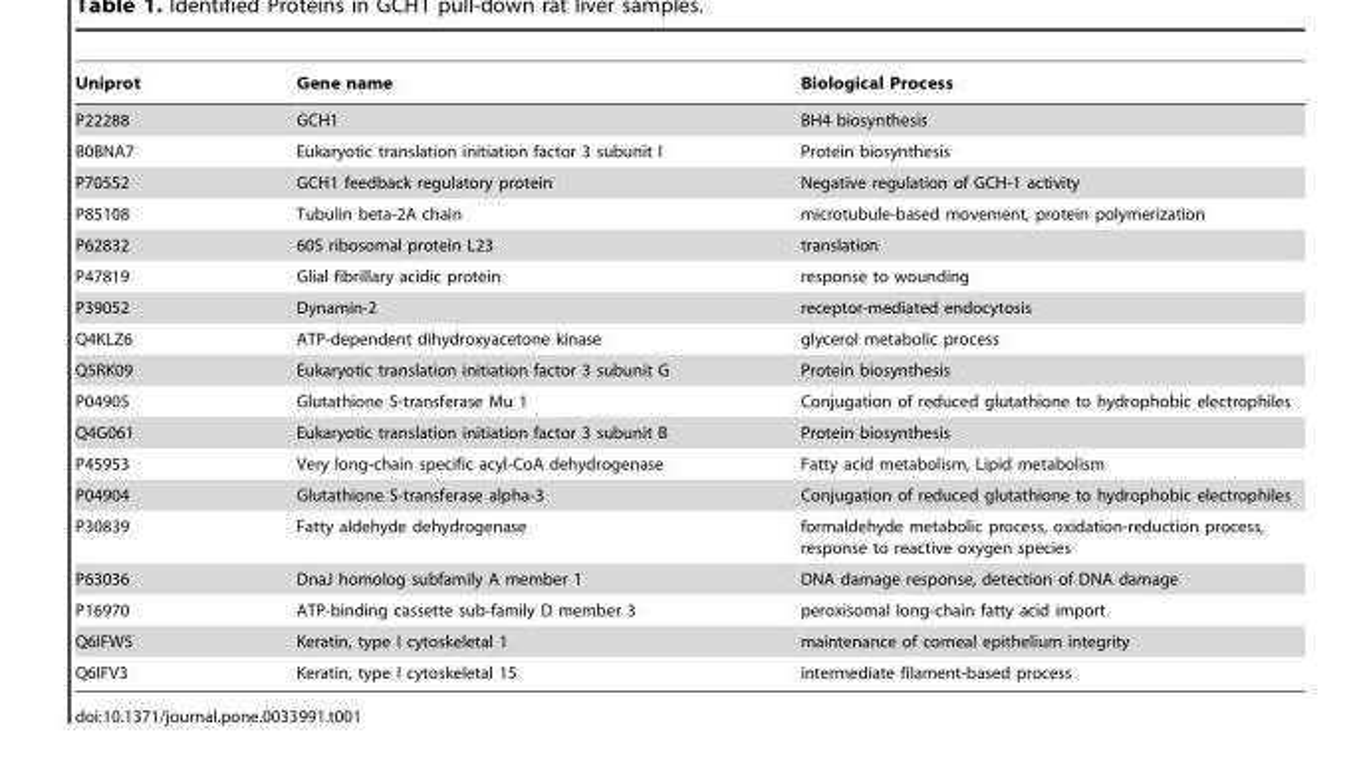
<table><thead><tr><td>Uniprot</td><td>Gene name</td><td>Biological Process</td></tr></thead><tbody><tr><td>P22288</td><td>GCH1</td><td>BH4 biosynthesis</td></tr><tr><td>B0BNA7</td><td>Eukaryotic translation initiation factor 3 subunit I</td><td>Protein biosynthesis</td></tr><tr><td>P70552</td><td>GCH1 feedback regulatory protein</td><td>Negative regulation of GCH-1 activity</td></tr><tr><td>P85108</td><td>Tubulin beta-2A chain</td><td>microtubule-based movement, protein polymerization</td></tr><tr><td>P62832</td><td>60S ribosomal protein L23</td><td>translation</td></tr><tr><td>P47819</td><td>Glial fibrillary acidic protein</td><td>response to wounding</td></tr><tr><td>P39052</td><td>Dynamin-2</td><td>receptor-mediated endocytosis</td></tr><tr><td>Q4KLZ6</td><td>ATP-dependent dihydroxyacetone kinase</td><td>glycerol metabolic process</td></tr><tr><td>Q5RK09</td><td>Eukaryotic translation initiation factor 3 subunit G</td><td>Protein biosynthesis</td></tr><tr><td>P04905</td><td>Glutathione S-transferase Mu 1</td><td>Conjugation of reduced glutathione to hydrophobic electrophiles</td></tr><tr><td>Q4G061</td><td>Eukaryotic translation initiation factor 3 subunit B</td><td>Protein biosynthesis</td></tr><tr><td>P45953</td><td>Very long-chain specific acyl-CoA dehydrogenase</td><td>Fatty acid metabolism, Lipid metabolism</td></tr><tr><td>P04904</td><td>Glutathione S-transferase alpha-3</td><td>Conjugation of reduced glutathione to hydrophobic electrophiles</td></tr><tr><td>P30839</td><td>Fatty aldehyde dehydrogenase</td><td>formaldehyde metabolic process, oxidation-reduction process, response to reactive oxygen species</td></tr><tr><td>P63036</td><td>DnaJ homolog subfamily A member 1</td><td>DNA damage response, detection of DNA damage</td></tr><tr><td>P16970</td><td>ATP-binding cassette sub-family D member 3</td><td>peroxisomal long-chain fatty acid import</td></tr><tr><td>Q6IFW5</td><td>Keratin, type I cytoskeletal 1</td><td>maintenance of corneal epithelium integrity</td></tr><tr><td>Q6IFV3</td><td>Keratin, type I cytoskeletal 15</td><td>intermediate filament-based process</td></tr></tbody></table>